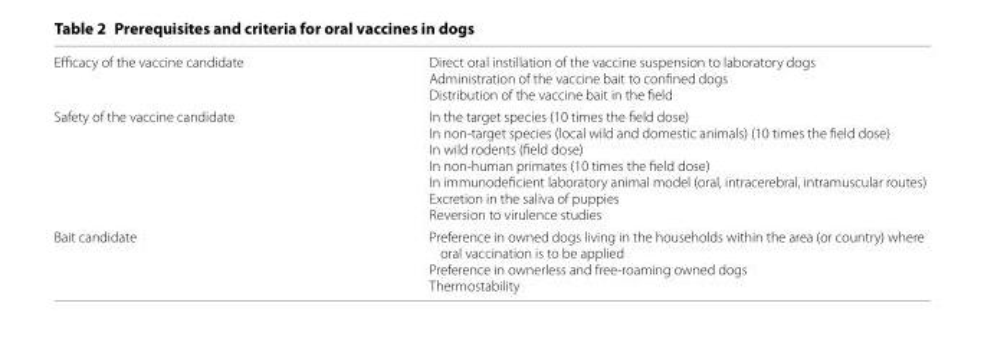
<table><tbody><tr><td>Efficacy of the vaccine candidate</td><td>Direct oral instillation of the vaccine suspension to laboratory dogs Administration of the vaccine bait to confined dogs Distribution of the vaccine bait in the field</td></tr><tr><td>Safety of the vaccine candidate</td><td>In the target species (10 times the field dose) In non‑target species (local wild and domestic animals) (10 times the field dose) In wild rodents (field dose) In non‑human primates (10 times the field dose) In immunodeficient laboratory animal model (oral, intracerebral, intramuscular routes) Excretion in the saliva of puppies Reversion to virulence studies</td></tr><tr><td>Bait candidate</td><td>Preference in owned dogs living in the households within the area (or country) where oral vaccination is to be applied Preference in ownerless and free‑roaming owned dogs Thermostability</td></tr></tbody></table>